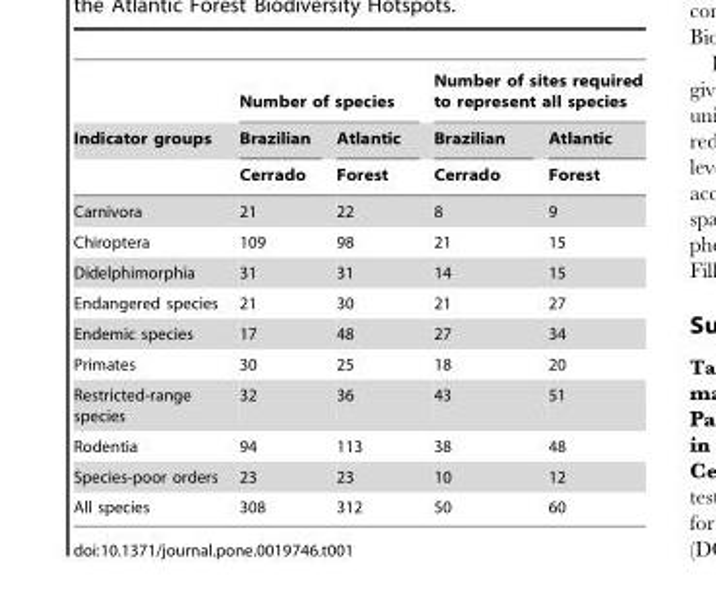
<table><thead><tr><td rowspan="3">Indicator groups</td><td colspan="2">Number of species</td><td colspan="2">Number of sites required to represent all species</td></tr><tr><td rowspan="2">Brazilian Cerrado</td><td rowspan="2">Atlantic Forest</td><td rowspan="2">Brazilian Cerrado</td><td rowspan="2">Atlantic Forest</td></tr><tr></tr></thead><tbody><tr><td>Carnivora</td><td>21</td><td>22</td><td>8</td><td>9</td></tr><tr><td>Chiroptera</td><td>109</td><td>98</td><td>21</td><td>15</td></tr><tr><td>Didelphimorphia</td><td>31</td><td>31</td><td>14</td><td>15</td></tr><tr><td>Endangered species</td><td>21</td><td>30</td><td>21</td><td>27</td></tr><tr><td>Endemic species</td><td>17</td><td>48</td><td>27</td><td>34</td></tr><tr><td>Primates</td><td>30</td><td>25</td><td>18</td><td>20</td></tr><tr><td>Restricted-range species</td><td>32</td><td>36</td><td>43</td><td>51</td></tr><tr><td>Rodentia</td><td>94</td><td>113</td><td>38</td><td>48</td></tr><tr><td>Species-poor orders</td><td>23</td><td>23</td><td>10</td><td>12</td></tr><tr><td>All species</td><td>308</td><td>312</td><td>50</td><td>60</td></tr></tbody></table>